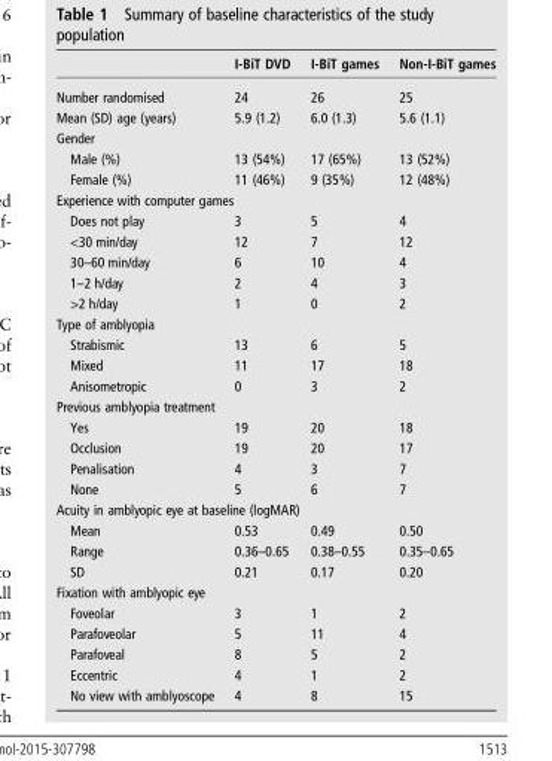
<table><thead><tr><td></td><td>I-BiT DVD</td><td>I-BiT games</td><td>Non-I-BiT games</td></tr></thead><tbody><tr><td>Number randomised</td><td>24</td><td>26</td><td>25</td></tr><tr><td>Mean (SD) age (years)</td><td>5.9 (1.2)</td><td>6.0 (1.3)</td><td>5.6 (1.1)</td></tr><tr><td colspan="4">Gender</td></tr><tr><td>Male (%)</td><td>13 (54%)</td><td>17 (65%)</td><td>13 (52%)</td></tr><tr><td>Female (%)</td><td>11 (46%)</td><td>9 (35%)</td><td>12 (48%)</td></tr><tr><td colspan="4">Experience with computer games</td></tr><tr><td>Does not play</td><td>3</td><td>5</td><td>4</td></tr><tr><td>&lt;30 min/day</td><td>12</td><td>7</td><td>12</td></tr><tr><td>30–60 min/day</td><td>6</td><td>10</td><td>4</td></tr><tr><td>1–2 h/day</td><td>2</td><td>4</td><td>3</td></tr><tr><td>&gt;2 h/day</td><td>1</td><td>0</td><td>2</td></tr><tr><td colspan="4">Type of amblyopia</td></tr><tr><td>Strabismic</td><td>13</td><td>6</td><td>5</td></tr><tr><td>Mixed</td><td>11</td><td>17</td><td>18</td></tr><tr><td>Anisometropic</td><td>0</td><td>3</td><td>2</td></tr><tr><td colspan="4">Previous amblyopia treatment</td></tr><tr><td>Yes</td><td>19</td><td>20</td><td>18</td></tr><tr><td>Occlusion</td><td>19</td><td>20</td><td>17</td></tr><tr><td>Penalisation</td><td>4</td><td>3</td><td>7</td></tr><tr><td>None</td><td>5</td><td>6</td><td>7</td></tr><tr><td colspan="4">Acuity in amblyopic eye at baseline (logMAR)</td></tr><tr><td>Mean</td><td>0.53</td><td>0.49</td><td>0.50</td></tr><tr><td>Range</td><td>0.36–0.65</td><td>0.38–0.55</td><td>0.35–0.65</td></tr><tr><td>SD</td><td>0.21</td><td>0.17</td><td>0.20</td></tr><tr><td colspan="4">Fixation with amblyopic eye</td></tr><tr><td>Foveolar</td><td>3</td><td>1</td><td>2</td></tr><tr><td>Parafoveolar</td><td>5</td><td>11</td><td>4</td></tr><tr><td>Parafoveal</td><td>8</td><td>5</td><td>2</td></tr><tr><td>Eccentric</td><td>4</td><td>1</td><td>2</td></tr><tr><td>No view with amblyoscope</td><td>4</td><td>8</td><td>15</td></tr></tbody></table>